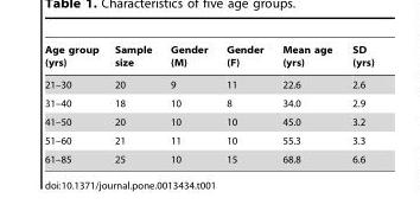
<table><thead><tr><td>Age group (yrs)</td><td>Sample size</td><td>Gender (M)</td><td>Gender (F)</td><td>Mean age (yrs)</td><td>SD (yrs)</td></tr></thead><tbody><tr><td>21–30</td><td>20</td><td>9</td><td>11</td><td>22.6</td><td>2.6</td></tr><tr><td>31–40</td><td>18</td><td>10</td><td>8</td><td>34.0</td><td>2.9</td></tr><tr><td>41–50</td><td>20</td><td>10</td><td>10</td><td>45.0</td><td>3.2</td></tr><tr><td>51–60</td><td>21</td><td>11</td><td>10</td><td>55.3</td><td>3.3</td></tr><tr><td>61–85</td><td>25</td><td>10</td><td>15</td><td>68.8</td><td>6.6</td></tr></tbody></table>